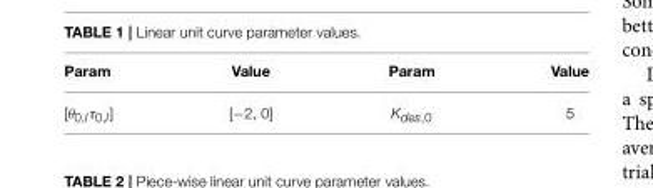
<table><thead><tr><td>Param</td><td>Value</td><td>Param</td><td>Value</td></tr></thead><tbody><tr><td>[θ<sub>0,l</sub>τ<sub>0,l</sub>]</td><td>[−2, 0]</td><td>K<sub>des,0</sub></td><td>5</td></tr></tbody></table>